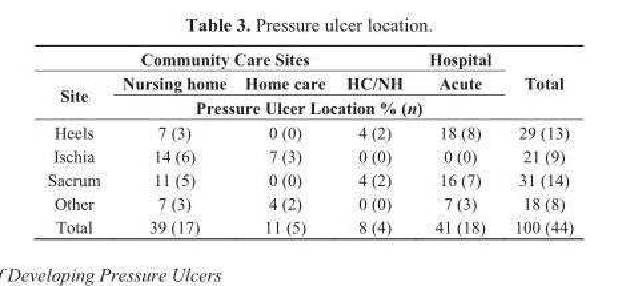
<table><thead><tr><td colspan="4">Community Care Sites</td><td rowspan="2">Hospital Acute</td><td rowspan="3">Total</td></tr><tr><td rowspan="2">Site</td><td>Nursing home</td><td>Home care</td><td>HC/NH</td></tr><tr><td colspan="4">Pressure Ulcer Location % (n)</td></tr></thead><tbody><tr><td>Heels</td><td>7 (3)</td><td>0 (0)</td><td>4 (2)</td><td>18 (8)</td><td>29 (13)</td></tr><tr><td>Ischia</td><td>14 (6)</td><td>7 (3)</td><td>0 (0)</td><td>0 (0)</td><td>21 (9)</td></tr><tr><td>Sacrum</td><td>11 (5)</td><td>0 (0)</td><td>4 (2)</td><td>16 (7)</td><td>31 (14)</td></tr><tr><td>Other</td><td>7 (3)</td><td>4 (2)</td><td>0 (0)</td><td>7 (3)</td><td>18 (8)</td></tr><tr><td>Total</td><td>39 (17)</td><td>11 (5)</td><td>8 (4)</td><td>41 (18)</td><td>100 (44)</td></tr></tbody></table>